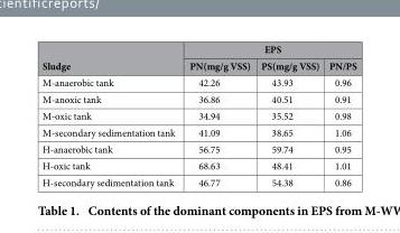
<table><thead><tr><td rowspan="2">Sludge</td><td colspan="3">EPS</td></tr><tr><td>PN(mg/g VSS)</td><td>PS(mg/g VSS)</td><td>PN/PS</td></tr></thead><tbody><tr><td>M-anaerobic tank</td><td>42.26</td><td>43.93</td><td>0.96</td></tr><tr><td>M-anoxic tank</td><td>36.86</td><td>40.51</td><td>0.91</td></tr><tr><td>M-oxic tank</td><td>34.94</td><td>35.52</td><td>0.98</td></tr><tr><td>M-secondary sedimentation tank</td><td>41.09</td><td>38.65</td><td>1.06</td></tr><tr><td>H-anaerobic tank</td><td>56.75</td><td>59.74</td><td>0.95</td></tr><tr><td>H-oxic tank</td><td>68.63</td><td>48.41</td><td>1.01</td></tr><tr><td>H-secondary sedimentation tank</td><td>46.77</td><td>54.38</td><td>0.86</td></tr></tbody></table>